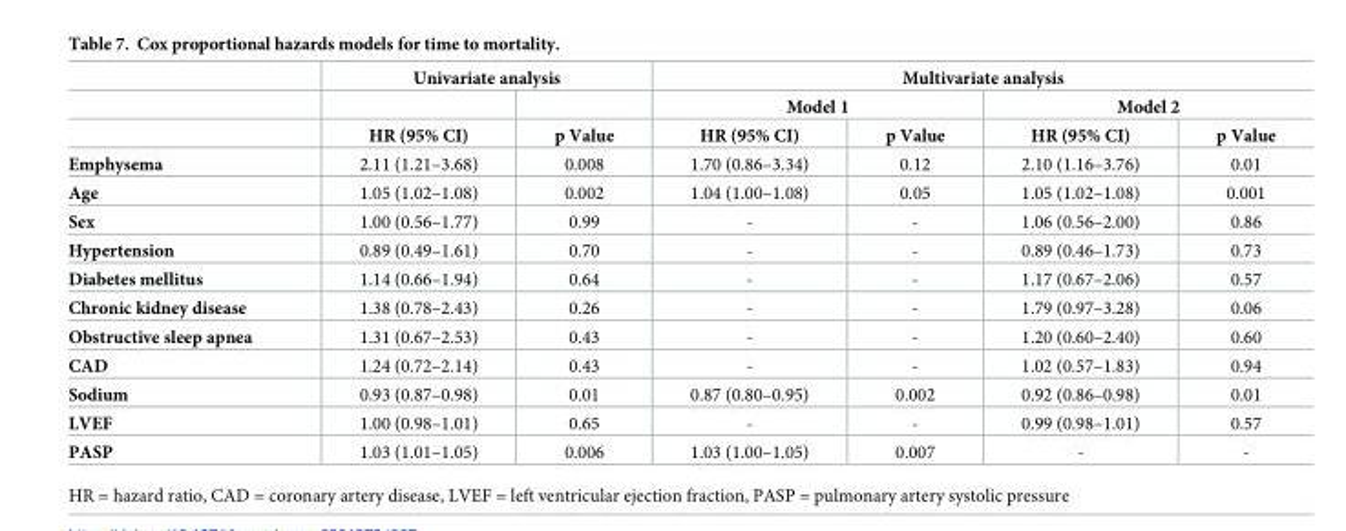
<table><thead><tr><td rowspan="3"></td><td colspan="2">Univariate analysis</td><td colspan="4">Multivariate analysis</td></tr><tr><td rowspan="2">HR (95% CI)</td><td rowspan="2">p Value</td><td colspan="2">Model 1</td><td colspan="2">Model 2</td></tr><tr><td>HR (95% CI)</td><td>p Value</td><td>HR (95% CI)</td><td>p Value</td></tr></thead><tbody><tr><td>Emphysema</td><td>2.11 (1.21–3.68)</td><td>0.008</td><td>1.70 (0.86–3.34)</td><td>0.12</td><td>2.10 (1.16–3.76)</td><td>0.01</td></tr><tr><td>Age</td><td>1.05 (1.02–1.08)</td><td>0.002</td><td>1.04 (1.00–1.08)</td><td>0.05</td><td>1.05 (1.02–1.08)</td><td>0.001</td></tr><tr><td>Sex</td><td>1.00 (0.56–1.77)</td><td>0.99</td><td>-</td><td>-</td><td>1.06 (0.56–2.00)</td><td>0.86</td></tr><tr><td>Hypertension</td><td>0.89 (0.49–1.61)</td><td>0.70</td><td>-</td><td>-</td><td>0.89 (0.46–1.73)</td><td>0.73</td></tr><tr><td>Diabetes mellitus</td><td>1.14 (0.66–1.94)</td><td>0.64</td><td>-</td><td>-</td><td>1.17 (0.67–2.06)</td><td>0.57</td></tr><tr><td>Chronic kidney disease</td><td>1.38 (0.78–2.43)</td><td>0.26</td><td>-</td><td>-</td><td>1.79 (0.97–3.28)</td><td>0.06</td></tr><tr><td>Obstructive sleep apnea</td><td>1.31 (0.67–2.53)</td><td>0.43</td><td>-</td><td>-</td><td>1.20 (0.60–2.40)</td><td>0.60</td></tr><tr><td>CAD</td><td>1.24 (0.72–2.14)</td><td>0.43</td><td>-</td><td>-</td><td>1.02 (0.57–1.83)</td><td>0.94</td></tr><tr><td>Sodium</td><td>0.93 (0.87–0.98)</td><td>0.01</td><td>0.87 (0.80–0.95)</td><td>0.002</td><td>0.92 (0.86–0.98)</td><td>0.01</td></tr><tr><td>LVEF</td><td>1.00 (0.98–1.01)</td><td>0.65</td><td>-</td><td>-</td><td>0.99 (0.98–1.01)</td><td>0.57</td></tr><tr><td>PASP</td><td>1.03 (1.01–1.05)</td><td>0.006</td><td>1.03 (1.00–1.05)</td><td>0.007</td><td>-</td><td>-</td></tr></tbody></table>